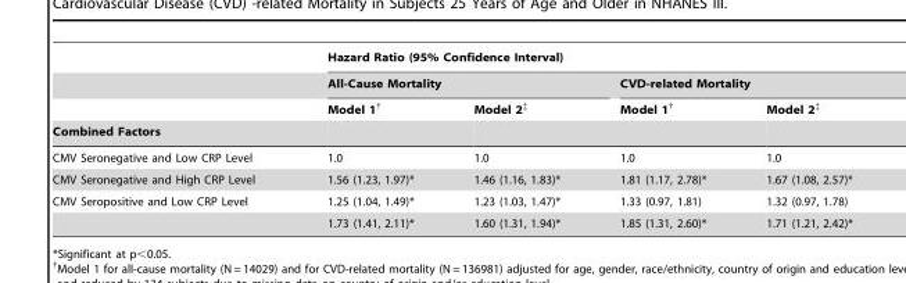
<table><thead><tr><td rowspan="4">Combined Factors</td><td colspan="4">Hazard Ratio (95% Confidence Interval)</td></tr><tr><td colspan="2">All-Cause Mortality</td><td colspan="2">CVD-related Mortality</td></tr><tr><td rowspan="2">Model 1†</td><td rowspan="2">Model 2‡</td><td rowspan="2">Model 1†</td><td rowspan="2">Model 2‡</td></tr><tr></tr></thead><tbody><tr><td>CMV Seronegative and Low CRP Level</td><td>1.0</td><td>1.0</td><td>1.0</td><td>1.0</td></tr><tr><td>CMV Seronegative and High CRP Level</td><td>1.56 (1.23, 1.97)*</td><td>1.46 (1.16, 1.83)*</td><td>1.81 (1.17, 2.78)*</td><td>1.67 (1.08, 2.57)*</td></tr><tr><td rowspan="2">CMV Seropositive and Low CRP Level</td><td>1.25 (1.04, 1.49)*</td><td>1.23 (1.03, 1.47)*</td><td>1.33 (0.97, 1.81)</td><td>1.32 (0.97, 1.78)</td></tr><tr><td>1.73 (1.41, 2.11)*</td><td>1.60 (1.31, 1.94)*</td><td>1.85 (1.31, 2.60)*</td><td>1.71 (1.21, 2.42)*</td></tr></tbody></table>